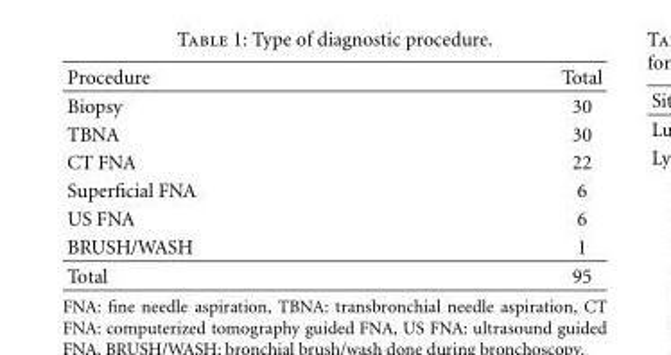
<table><thead><tr><td>Procedure</td><td>Total</td></tr></thead><tbody><tr><td>Biopsy</td><td>30</td></tr><tr><td>TBNA</td><td>30</td></tr><tr><td>CT FNA</td><td>22</td></tr><tr><td>Superficial FNA</td><td>6</td></tr><tr><td>US FNA</td><td>6</td></tr><tr><td>BRUSH/WASH</td><td>1</td></tr><tr><td>Total</td><td>95</td></tr></tbody></table>